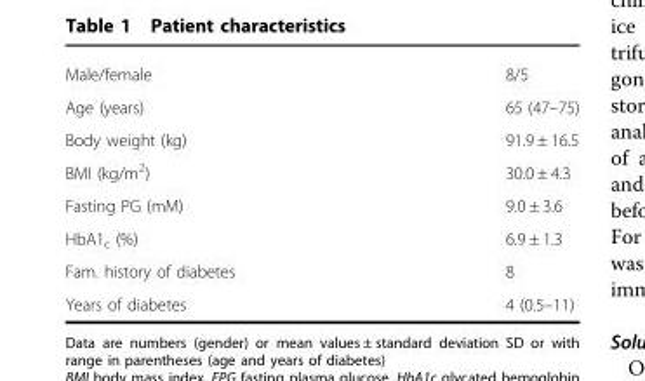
<table><tbody><tr><td>Male/female</td><td>8/5</td></tr><tr><td>Age (years)</td><td>65 (47–75)</td></tr><tr><td>Body weight (kg)</td><td>91.9 ± 16.5</td></tr><tr><td>BMI (kg/m<sup>2</sup>)</td><td>30.0 ± 4.3</td></tr><tr><td>Fasting PG (mM)</td><td>9.0 ± 3.6</td></tr><tr><td>HbA1<sub>c</sub> (%)</td><td>6.9 ± 1.3</td></tr><tr><td>Fam. history of diabetes</td><td>8</td></tr><tr><td>Years of diabetes</td><td>4 (0.5–11)</td></tr></tbody></table>